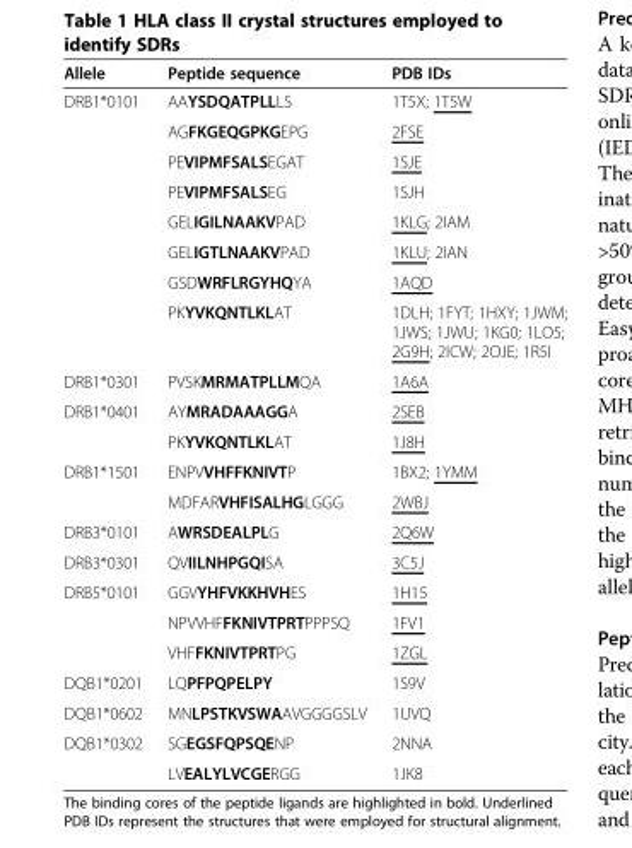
<table><thead><tr><td>Allele</td><td>Peptide sequence</td><td>PDB IDs</td></tr></thead><tbody><tr><td rowspan="8">DRB1*0101</td><td>AAYSDQATPLLLS</td><td>1T5X; 1T5W</td></tr><tr><td>AGFKGEQGPKGEPG</td><td>2FSE</td></tr><tr><td>PEVIPMFSALSEGAT</td><td>1SJE</td></tr><tr><td>PEVIPMFSALSEG</td><td>1SJH</td></tr><tr><td>GELIGILNAAKVPAD</td><td>1KLG; 2IAM</td></tr><tr><td>GELIGTLNAAKVPAD</td><td>1KLU; 2IAN</td></tr><tr><td>GSDWRFLRGYHQYA</td><td>1AQD</td></tr><tr><td>PKYVKQNTLKLAT</td><td>1DLH; 1FYT; 1HXY; 1JWM; 1JWS; 1JWU; 1KG0; 1LO5; 2G9H; 2ICW; 2OJE; 1R5I</td></tr><tr><td>DRB1*0301</td><td>PVSKMRMATPLLMQA</td><td>1A6A</td></tr><tr><td rowspan="2">DRB1*0401</td><td>AYMRADAAAGGA</td><td>2SEB</td></tr><tr><td>PKYVKQNTLKLAT</td><td>1J8H</td></tr><tr><td rowspan="2">DRB1*1501</td><td>ENPVVHFFKNIVTP</td><td>1BX2; 1YMM</td></tr><tr><td>MDFARVHFISALHGLGGG</td><td>2WBJ</td></tr><tr><td>DRB3*0101</td><td>AWRSDEALPLG</td><td>2Q6W</td></tr><tr><td>DRB3*0301</td><td>QVIILNHPGQISA</td><td>3C5J</td></tr><tr><td rowspan="3">DRB5*0101</td><td>GGVYHFVKKHVHES</td><td>1H15</td></tr><tr><td>NPVVHFFKNIVTPRTPPPSQ</td><td>1FV1</td></tr><tr><td>VHFFKNIVTPRTPG</td><td>1ZGL</td></tr><tr><td>DQB1*0201</td><td>LQPFPQPELPY</td><td>1S9V</td></tr><tr><td>DQB1*0602</td><td>MNLPSTKVSWAAVGGGGSLV</td><td>1UVQ</td></tr><tr><td rowspan="2">DQB1*0302</td><td>SGEGSFQPSQENP</td><td>2NNA</td></tr><tr><td>LVEALYLVCGERGG</td><td>1JK8</td></tr></tbody></table>